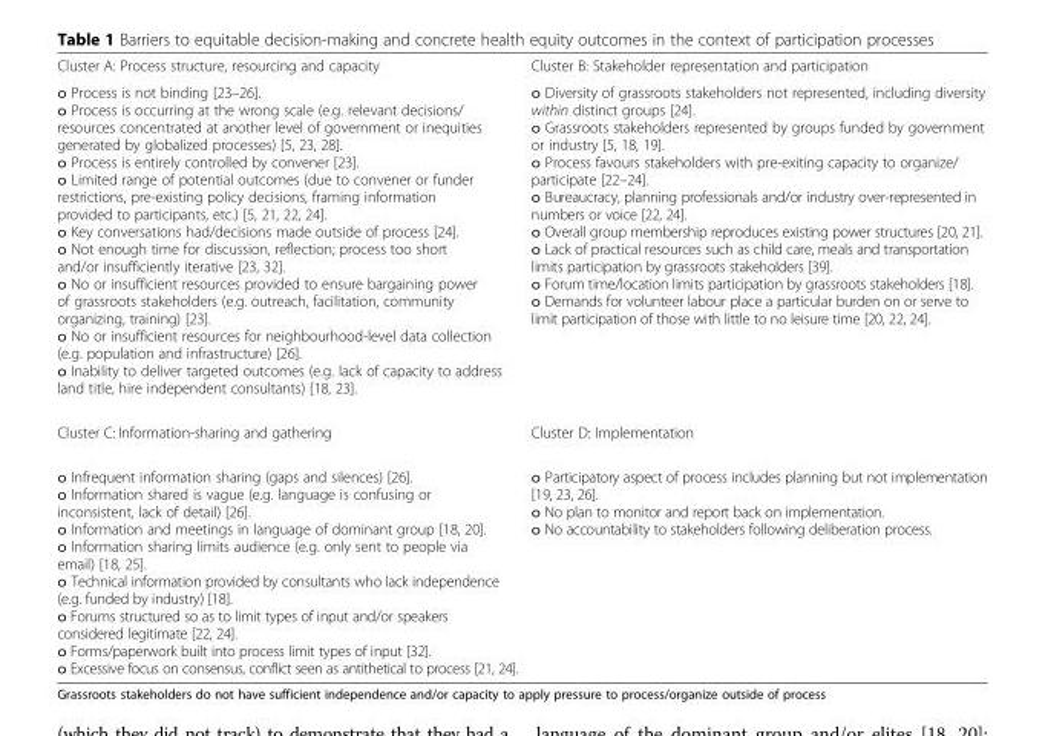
<table><tbody><tr><td>Cluster A: Process structure, resourcing and capacity</td><td>Cluster B: Stakeholder representation and participation</td></tr><tr><td>o Process is not binding [23–26]. o Process is occurring at the wrong scale (e.g. relevant decisions/ resources concentrated at another level of government or inequities generated by globalized processes) [5, 23, 28]. o Process is entirely controlled by convener [23]. o Limited range of potential outcomes (due to convener or funder restrictions, pre-existing policy decisions, framing information provided to participants, etc.) [5, 21, 22, 24]. o Key conversations had/decisions made outside of process [24]. o Not enough time for discussion, reflection; process too short and/or insufficiently iterative [23, 32]. o No or insufficient resources provided to ensure bargaining power of grassroots stakeholders (e.g. outreach, facilitation, community organizing, training) [23]. o No or insufficient resources for neighbourhood-level data collection (e.g. population and infrastructure) [26]. o Inability to deliver targeted outcomes (e.g. lack of capacity to address land title, hire independent consultants) [18, 23].</td><td>o Diversity of grassroots stakeholders not represented, including diversity within distinct groups [24]. o Grassroots stakeholders represented by groups funded by government or industry [5, 18, 19]. o Process favours stakeholders with pre-exiting capacity to organize/ participate [22–24]. o Bureaucracy, planning professionals and/or industry over-represented in numbers or voice [22, 24]. o Overall group membership reproduces existing power structures [20, 21]. o Lack of practical resources such as child care, meals and transportation limits participation by grassroots stakeholders [39]. o Forum time/location limits participation by grassroots stakeholders [18]. o Demands for volunteer labour place a particular burden on or serve to limit participation of those with little to no leisure time [20, 22, 24].</td></tr><tr><td>Cluster C: Information-sharing and gathering</td><td>Cluster D: Implementation</td></tr><tr><td>o Infrequent information sharing (gaps and silences) [26]. o Information shared is vague (e.g. language is confusing or inconsistent, lack of detail) [26]. o Information and meetings in language of dominant group [18, 20]. o Information sharing limits audience (e.g. only sent to people via email) [18, 25]. o Technical information provided by consultants who lack independence (e.g. funded by industry) [18]. o Forums structured so as to limit types of input and/or speakers considered legitimate [22, 24]. o Forms/paperwork built into process limit types of input [32]. o Excessive focus on consensus, conflict seen as antithetical to process [21, 24].</td><td>o Participatory aspect of process includes planning but not implementation [19, 23, 26]. o No plan to monitor and report back on implementation. o No accountability to stakeholders following deliberation process.</td></tr></tbody></table>